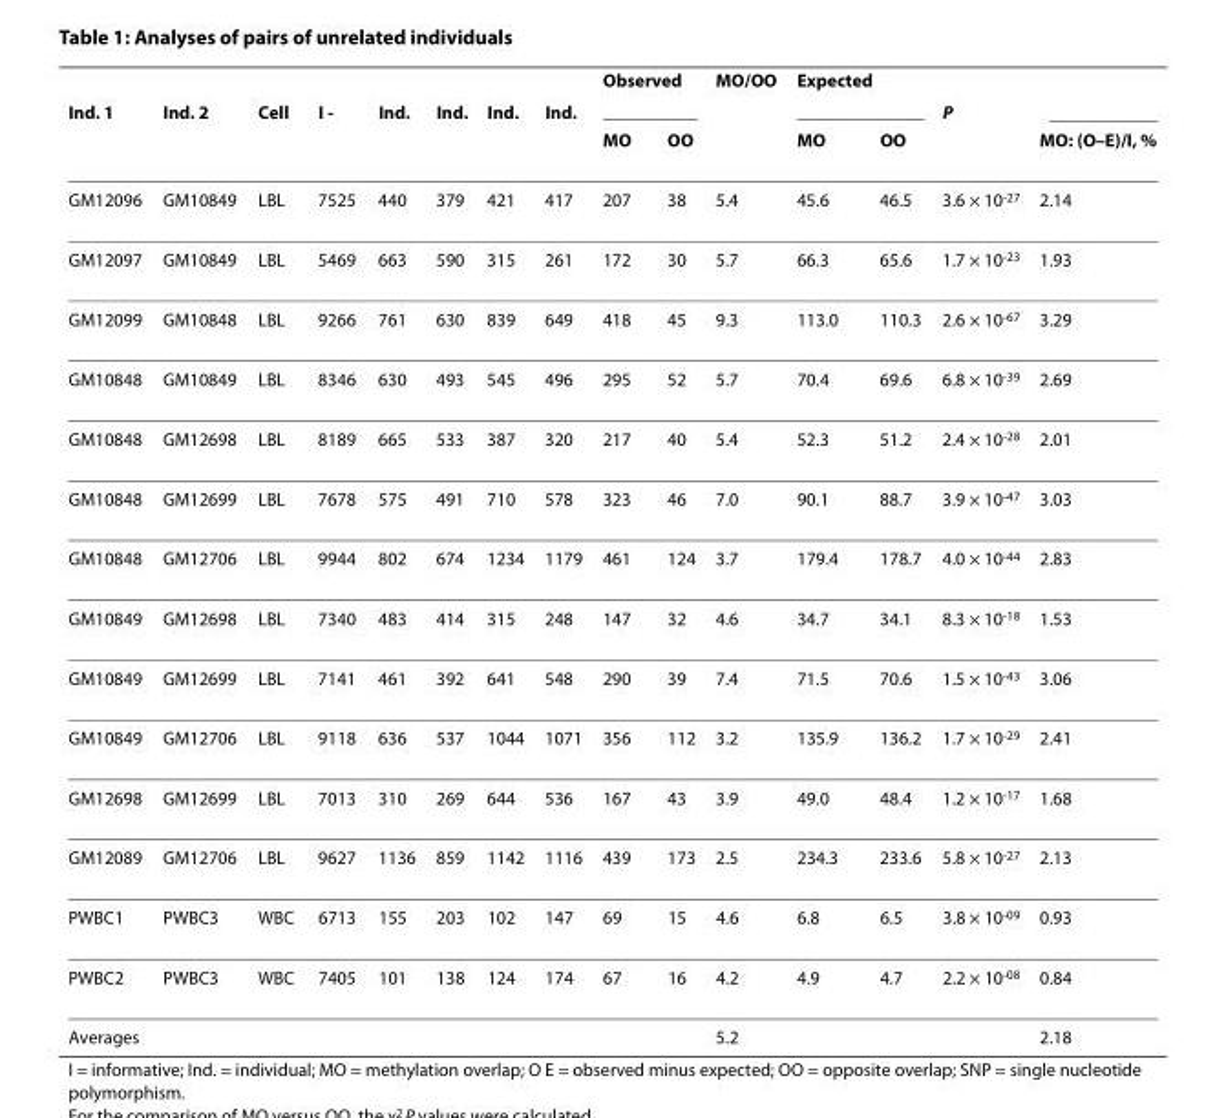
<table><thead><tr><td rowspan="3">Ind. 1</td><td rowspan="3">Ind. 2</td><td rowspan="3">Cell</td><td rowspan="3">I -</td><td rowspan="3">Ind.</td><td rowspan="3">Ind.</td><td rowspan="3">Ind.</td><td rowspan="3">Ind.</td><td colspan="2">Observed</td><td rowspan="3">MO/OO</td><td colspan="2">Expected</td><td rowspan="3">P</td><td rowspan="3">MO: (O–E)/I, %</td></tr><tr><td rowspan="2">MO</td><td rowspan="2">OO</td><td rowspan="2">MO</td><td rowspan="2">OO</td></tr><tr></tr></thead><tbody><tr><td>GM12096</td><td>GM10849</td><td>LBL</td><td>7525</td><td>440</td><td>379</td><td>421</td><td>417</td><td>207</td><td>38</td><td>5.4</td><td>45.6</td><td>46.5</td><td>3.6 × 10<sup>-27</sup></td><td>2.14</td></tr><tr><td>GM12097</td><td>GM10849</td><td>LBL</td><td>5469</td><td>663</td><td>590</td><td>315</td><td>261</td><td>172</td><td>30</td><td>5.7</td><td>66.3</td><td>65.6</td><td>1.7 × 10<sup>-23</sup></td><td>1.93</td></tr><tr><td>GM12099</td><td>GM10848</td><td>LBL</td><td>9266</td><td>761</td><td>630</td><td>839</td><td>649</td><td>418</td><td>45</td><td>9.3</td><td>113.0</td><td>110.3</td><td>2.6 × 10<sup>-67</sup></td><td>3.29</td></tr><tr><td>GM10848</td><td>GM10849</td><td>LBL</td><td>8346</td><td>630</td><td>493</td><td>545</td><td>496</td><td>295</td><td>52</td><td>5.7</td><td>70.4</td><td>69.6</td><td>6.8 × 10<sup>-39</sup></td><td>2.69</td></tr><tr><td>GM10848</td><td>GM12698</td><td>LBL</td><td>8189</td><td>665</td><td>533</td><td>387</td><td>320</td><td>217</td><td>40</td><td>5.4</td><td>52.3</td><td>51.2</td><td>2.4 × 10<sup>-28</sup></td><td>2.01</td></tr><tr><td>GM10848</td><td>GM12699</td><td>LBL</td><td>7678</td><td>575</td><td>491</td><td>710</td><td>578</td><td>323</td><td>46</td><td>7.0</td><td>90.1</td><td>88.7</td><td>3.9 × 10<sup>-47</sup></td><td>3.03</td></tr><tr><td>GM10848</td><td>GM12706</td><td>LBL</td><td>9944</td><td>802</td><td>674</td><td>1234</td><td>1179</td><td>461</td><td>124</td><td>3.7</td><td>179.4</td><td>178.7</td><td>4.0 × 10<sup>-44</sup></td><td>2.83</td></tr><tr><td>GM10849</td><td>GM12698</td><td>LBL</td><td>7340</td><td>483</td><td>414</td><td>315</td><td>248</td><td>147</td><td>32</td><td>4.6</td><td>34.7</td><td>34.1</td><td>8.3 × 10<sup>-18</sup></td><td>1.53</td></tr><tr><td>GM10849</td><td>GM12699</td><td>LBL</td><td>7141</td><td>461</td><td>392</td><td>641</td><td>548</td><td>290</td><td>39</td><td>7.4</td><td>71.5</td><td>70.6</td><td>1.5 × 10<sup>-43</sup></td><td>3.06</td></tr><tr><td>GM10849</td><td>GM12706</td><td>LBL</td><td>9118</td><td>636</td><td>537</td><td>1044</td><td>1071</td><td>356</td><td>112</td><td>3.2</td><td>135.9</td><td>136.2</td><td>1.7 × 10<sup>-29</sup></td><td>2.41</td></tr><tr><td>GM12698</td><td>GM12699</td><td>LBL</td><td>7013</td><td>310</td><td>269</td><td>644</td><td>536</td><td>167</td><td>43</td><td>3.9</td><td>49.0</td><td>48.4</td><td>1.2 × 10<sup>-17</sup></td><td>1.68</td></tr><tr><td>GM12089</td><td>GM12706</td><td>LBL</td><td>9627</td><td>1136</td><td>859</td><td>1142</td><td>1116</td><td>439</td><td>173</td><td>2.5</td><td>234.3</td><td>233.6</td><td>5.8 × 10<sup>-27</sup></td><td>2.13</td></tr><tr><td>PWBC1</td><td>PWBC3</td><td>WBC</td><td>6713</td><td>155</td><td>203</td><td>102</td><td>147</td><td>69</td><td>15</td><td>4.6</td><td>6.8</td><td>6.5</td><td>3.8 × 10<sup>-09</sup></td><td>0.93</td></tr><tr><td>PWBC2</td><td>PWBC3</td><td>WBC</td><td>7405</td><td>101</td><td>138</td><td>124</td><td>174</td><td>67</td><td>16</td><td>4.2</td><td>4.9</td><td>4.7</td><td>2.2 × 10<sup>-08</sup></td><td>0.84</td></tr><tr><td>Averages</td><td></td><td></td><td></td><td></td><td></td><td></td><td></td><td></td><td></td><td>5.2</td><td></td><td></td><td></td><td>2.18</td></tr></tbody></table>